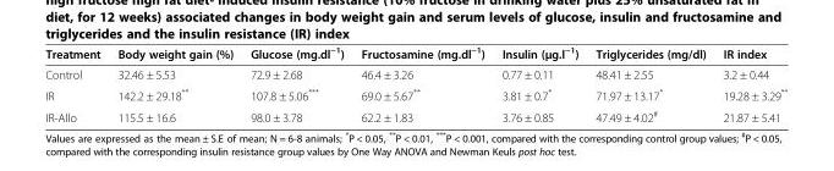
<table><thead><tr><td>Treatment</td><td>Body weight gain (%)</td><td>Glucose (mg.dl<sup>−1</sup>)</td><td>Fructosamine (mg.dl<sup>−1</sup>)</td><td>Insulin (μg.l<sup>−1</sup>)</td><td>Triglycerides (mg/dl)</td><td>IR index</td></tr></thead><tbody><tr><td>Control</td><td>32.46 ± 5.53</td><td>72.9 ± 2.68</td><td>46.4 ± 3.26</td><td>0.77 ± 0.11</td><td>48.41 ± 2.55</td><td>3.2 ± 0.44</td></tr><tr><td>IR</td><td>142.2 ± 29.18**</td><td>107.8 ± 5.06***</td><td>69.0 ± 5.67**</td><td>3.81 ± 0.7*</td><td>71.97 ± 13.17*</td><td>19.28 ± 3.29**</td></tr><tr><td>IR-Allo</td><td>115.5 ± 16.6</td><td>98.0 ± 3.78</td><td>62.2 ± 1.83</td><td>3.76 ± 0.85</td><td>47.49 ± 4.02<sup>#</sup></td><td>21.87 ± 5.41</td></tr></tbody></table>